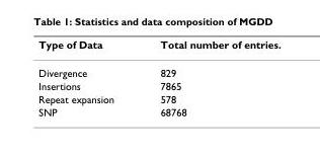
<table><thead><tr><td>Type of Data</td><td>Total number of entries.</td></tr></thead><tbody><tr><td>Divergence</td><td>829</td></tr><tr><td>Insertions</td><td>7865</td></tr><tr><td>Repeat expansion</td><td>578</td></tr><tr><td>SNP</td><td>68768</td></tr></tbody></table>